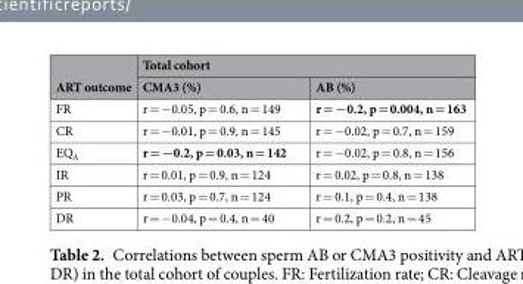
<table><thead><tr><td rowspan="2">ART outcome</td><td colspan="2">Total cohort</td></tr><tr><td>CMA3 (%)</td><td>AB (%)</td></tr></thead><tbody><tr><td>FR</td><td>r = −0.05, p = 0.6, n = 149</td><td>r = −0.2, p = 0.004, n = 163</td></tr><tr><td>CR</td><td>r = −0.01, p = 0.9, n = 145</td><td>r = −0.02, p = 0.7, n = 159</td></tr><tr><td>EQ<sub>A</sub></td><td>r = −0.2, p = 0.03, n = 142</td><td>r = −0.02, p = 0.8, n = 156</td></tr><tr><td>IR</td><td>r = 0.01, p = 0.9, n = 124</td><td>r = 0.02, p = 0.8, n = 138</td></tr><tr><td>PR</td><td>r = 0.03, p = 0.7, n = 124</td><td>r = 0.1, p = 0.4, n = 138</td></tr><tr><td>DR</td><td>r = −0.04, p = 0.4, n = 40</td><td>r = 0.2, p = 0.2, n = 45</td></tr></tbody></table>